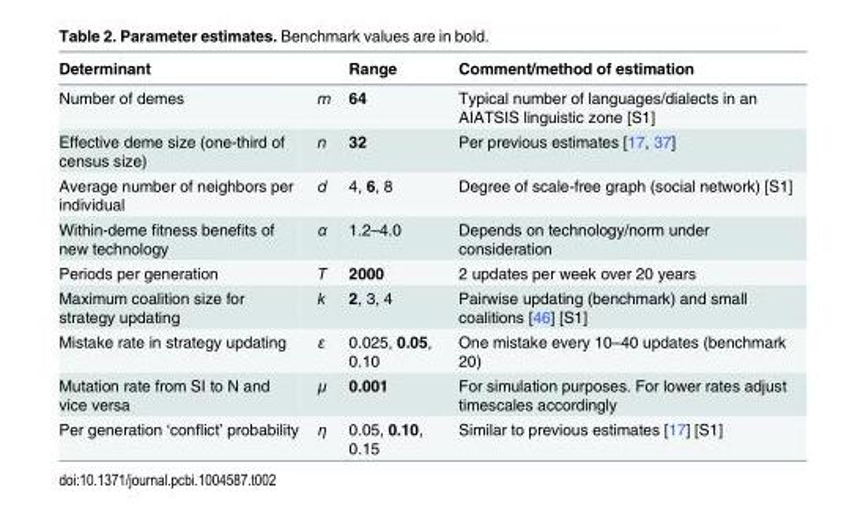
<table><thead><tr><td>Determinant</td><td></td><td>Range</td><td>Comment/method of estimation</td></tr></thead><tbody><tr><td>Number of demes</td><td>m</td><td>64</td><td>Typical number of languages/dialects in an AIATSIS linguistic zone [S1]</td></tr><tr><td>Effective deme size (one-third of census size)</td><td>n</td><td>32</td><td>Per previous estimates [17, 37]</td></tr><tr><td>Average number of neighbors per individual</td><td>d</td><td>4, 6, 8</td><td>Degree of scale-free graph (social network) [S1]</td></tr><tr><td>Within-deme fitness benefits of new technology</td><td>α</td><td>1.2–4.0</td><td>Depends on technology/norm under consideration</td></tr><tr><td>Periods per generation</td><td>T</td><td>2000</td><td>2 updates per week over 20 years</td></tr><tr><td>Maximum coalition size for strategy updating</td><td>k</td><td>2, 3, 4</td><td>Pairwise updating (benchmark) and small coalitions [46] [S1]</td></tr><tr><td>Mistake rate in strategy updating</td><td>ε</td><td>0.025, 0.05, 0.10</td><td>One mistake every 10–40 updates (benchmark 20)</td></tr><tr><td>Mutation rate from SI to N and vice versa</td><td>μ</td><td>0.001</td><td>For simulation purposes. For lower rates adjust timescales accordingly</td></tr><tr><td>Per generation ‘conflict’ probability</td><td>η</td><td>0.05, 0.10, 0.15</td><td>Similar to previous estimates [17] [S1]</td></tr></tbody></table>